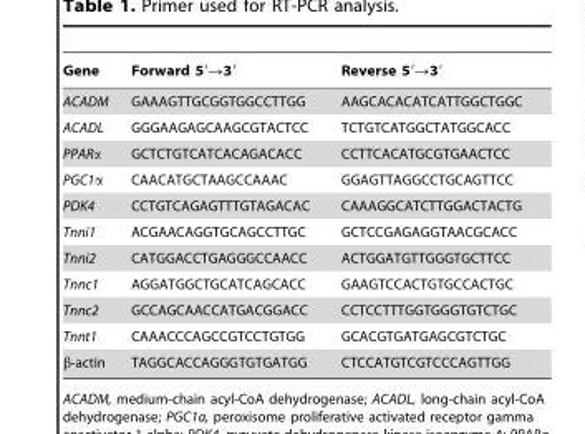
<table><thead><tr><td>Gene</td><td>Forward 5′→3′</td><td>Reverse 5′→3′</td></tr></thead><tbody><tr><td>ACADM</td><td>GAAAGTTGCGGTGGCCTTGG</td><td>AAGCACACATCATTGGCTGGC</td></tr><tr><td>ACADL</td><td>GGGAAGAGCAAGCGTACTCC</td><td>TCTGTCATGGCTATGGCACC</td></tr><tr><td>PPARα</td><td>GCTCTGTCATCACAGACACC</td><td>CCTTCACATGCGTGAACTCC</td></tr><tr><td>PGC1α</td><td>CAACATGCTAAGCCAAAC</td><td>GGAGTTAGGCCTGCAGTTCC</td></tr><tr><td>PDK4</td><td>CCTGTCAGAGTTTGTAGACAC</td><td>CAAAGGCATCTTGGACTACTG</td></tr><tr><td>Tnni1</td><td>ACGAACAGGTGCAGCCTTGC</td><td>GCTCCGAGAGGTAACGCACC</td></tr><tr><td>Tnni2</td><td>CATGGACCTGAGGGCCAACC</td><td>ACTGGATGTTGGGTGCTTCC</td></tr><tr><td>Tnnc1</td><td>AGGATGGCTGCATCAGCACC</td><td>GAAGTCCACTGTGCCACTGC</td></tr><tr><td>Tnnc2</td><td>GCCAGCAACCATGACGGACC</td><td>CCTCCTTTGGTGGGTGTCTGC</td></tr><tr><td>Tnnt1</td><td>CAAACCCAGCCGTCCTGTGG</td><td>GCACGTGATGAGCGTCTGC</td></tr><tr><td>β-actin</td><td>TAGGCACCAGGGTGTGATGG</td><td>CTCCATGTCGTCCCAGTTGG</td></tr></tbody></table>